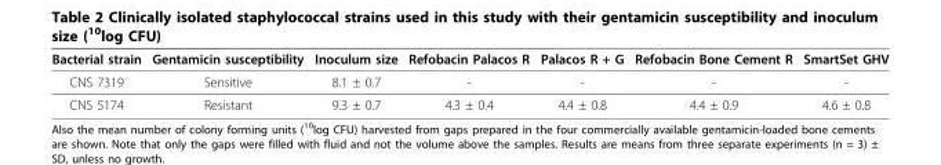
<table><thead><tr><td>Bacterial strain</td><td>Gentamicin susceptibility</td><td>Inoculum size</td><td>Refobacin Palacos R</td><td>Palacos R + G</td><td>Refobacin Bone Cement R</td><td>SmartSet GHV</td></tr></thead><tbody><tr><td>CNS 7319</td><td>Sensitive</td><td>8.1 ± 0.7</td><td>-</td><td>-</td><td>-</td><td>-</td></tr><tr><td>CNS 5174</td><td>Resistant</td><td>9.3 ± 0.7</td><td>4.3 ± 0.4</td><td>4.4 ± 0.8</td><td>4.4 ± 0.9</td><td>4.6 ± 0.8</td></tr></tbody></table>